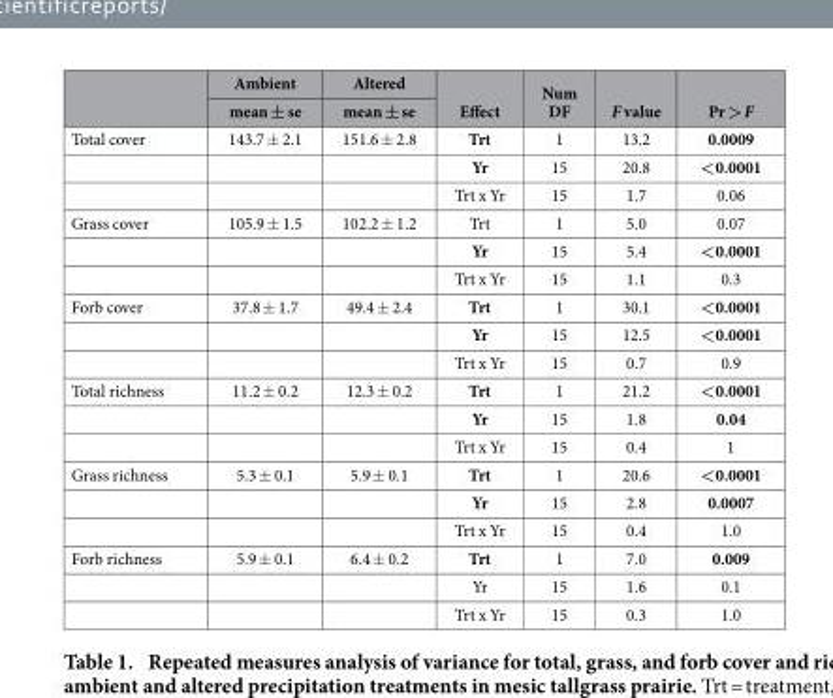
<table><thead><tr><td rowspan="2"></td><td rowspan="2">Ambient mean ± se</td><td rowspan="2">Altered mean ± se</td><td rowspan="2">Effect</td><td rowspan="2">Num DF</td><td rowspan="2">F value</td><td rowspan="2">Pr &gt; F</td></tr><tr></tr></thead><tbody><tr><td rowspan="3">Total cover</td><td>143.7 ± 2.1</td><td>151.6 ± 2.8</td><td>Trt</td><td>1</td><td>13.2</td><td>0.0009</td></tr><tr><td></td><td></td><td>Yr</td><td>15</td><td>20.8</td><td>&lt;0.0001</td></tr><tr><td></td><td></td><td>Trt x Yr</td><td>15</td><td>1.7</td><td>0.06</td></tr><tr><td rowspan="3">Grass cover</td><td>105.9 ± 1.5</td><td>102.2 ± 1.2</td><td>Trt</td><td>1</td><td>5.0</td><td>0.07</td></tr><tr><td></td><td></td><td>Yr</td><td>15</td><td>5.4</td><td>&lt;0.0001</td></tr><tr><td></td><td></td><td>Trt x Yr</td><td>15</td><td>1.1</td><td>0.3</td></tr><tr><td rowspan="3">Forb cover</td><td>37.8 ± 1.7</td><td>49.4 ± 2.4</td><td>Trt</td><td>1</td><td>30.1</td><td>&lt;0.0001</td></tr><tr><td></td><td></td><td>Yr</td><td>15</td><td>12.5</td><td>&lt;0.0001</td></tr><tr><td></td><td></td><td>Trt x Yr</td><td>15</td><td>0.7</td><td>0.9</td></tr><tr><td rowspan="3">Total richness</td><td>11.2 ± 0.2</td><td>12.3 ± 0.2</td><td>Trt</td><td>1</td><td>21.2</td><td>&lt;0.0001</td></tr><tr><td></td><td></td><td>Yr</td><td>15</td><td>1.8</td><td>0.04</td></tr><tr><td></td><td></td><td>Trt x Yr</td><td>15</td><td>0.4</td><td>1</td></tr><tr><td rowspan="3">Grass richness</td><td>5.3 ± 0.1</td><td>5.9 ± 0.1</td><td>Trt</td><td>1</td><td>20.6</td><td>&lt;0.0001</td></tr><tr><td></td><td></td><td>Yr</td><td>15</td><td>2.8</td><td>0.0007</td></tr><tr><td></td><td></td><td>Trt x Yr</td><td>15</td><td>0.4</td><td>1.0</td></tr><tr><td rowspan="3">Forb richness</td><td>5.9 ± 0.1</td><td>6.4 ± 0.2</td><td>Trt</td><td>1</td><td>7.0</td><td>0.009</td></tr><tr><td></td><td></td><td>Yr</td><td>15</td><td>1.6</td><td>0.1</td></tr><tr><td></td><td></td><td>Trt x Yr</td><td>15</td><td>0.3</td><td>1.0</td></tr></tbody></table>